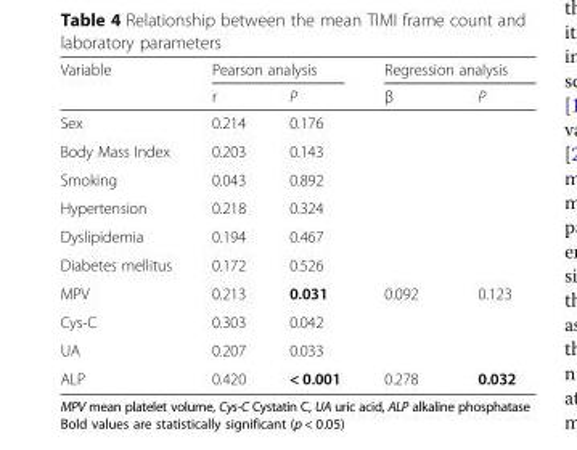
<table><thead><tr><td rowspan="2">Variable</td><td colspan="2">Pearson analysis</td><td colspan="2">Regression analysis</td></tr><tr><td>r</td><td>P</td><td>β</td><td>P</td></tr></thead><tbody><tr><td>Sex</td><td>0.214</td><td>0.176</td><td></td><td></td></tr><tr><td>Body Mass Index</td><td>0.203</td><td>0.143</td><td></td><td></td></tr><tr><td>Smoking</td><td>0.043</td><td>0.892</td><td></td><td></td></tr><tr><td>Hypertension</td><td>0.218</td><td>0.324</td><td></td><td></td></tr><tr><td>Dyslipidemia</td><td>0.194</td><td>0.467</td><td></td><td></td></tr><tr><td>Diabetes mellitus</td><td>0.172</td><td>0.526</td><td></td><td></td></tr><tr><td>MPV</td><td>0.213</td><td>0.031</td><td>0.092</td><td>0.123</td></tr><tr><td>Cys-C</td><td>0.303</td><td>0.042</td><td></td><td></td></tr><tr><td>UA</td><td>0.207</td><td>0.033</td><td></td><td></td></tr><tr><td>ALP</td><td>0.420</td><td>&lt; 0.001</td><td>0.278</td><td>0.032</td></tr></tbody></table>